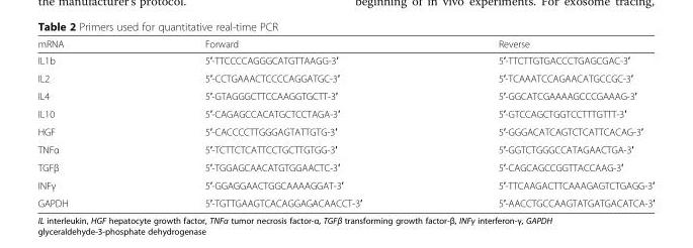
<table><thead><tr><td>mRNA</td><td>Forward</td><td>Reverse</td></tr></thead><tbody><tr><td>IL1b</td><td>5′-TTCCCCAGGGCATGTTAAGG-3′</td><td>5′-TTCTTGTGACCCTGAGCGAC-3′</td></tr><tr><td>IL2</td><td>5′-CCTGAAACTCCCCAGGATGC-3′</td><td>5′-TCAAATCCAGAACATGCCGC-3′</td></tr><tr><td>IL4</td><td>5′-GTAGGGCTTCCAAGGTGCTT-3′</td><td>5′-GGCATCGAAAAGCCCGAAAG-3′</td></tr><tr><td>IL10</td><td>5′-CAGAGCCACATGCTCCTAGA-3′</td><td>5′-GTCCAGCTGGTCCTTTGTTT-3′</td></tr><tr><td>HGF</td><td>5′-CACCCCTTGGGAGTATTGTG-3′</td><td>5′-GGGACATCAGTCTCATTCACAG-3′</td></tr><tr><td>TNFα</td><td>5′-TCTTCTCATTCCTGCTTGTGG-3′</td><td>5′-GGTCTGGGCCATAGAACTGA-3′</td></tr><tr><td>TGFβ</td><td>5′-TGGAGCAACATGTGGAACTC-3′</td><td>5′-CAGCAGCCGGTTACCAAG-3′</td></tr><tr><td>INFγ</td><td>5′-GGAGGAACTGGCAAAAGGAT-3′</td><td>5′-TTCAAGACTTCAAAGAGTCTGAGG-3′</td></tr><tr><td>GAPDH</td><td>5′-TGTTGAAGTCACAGGAGACAACCT-3′</td><td>5′-AACCTGCCAAGTATGATGACATCA-3′</td></tr></tbody></table>